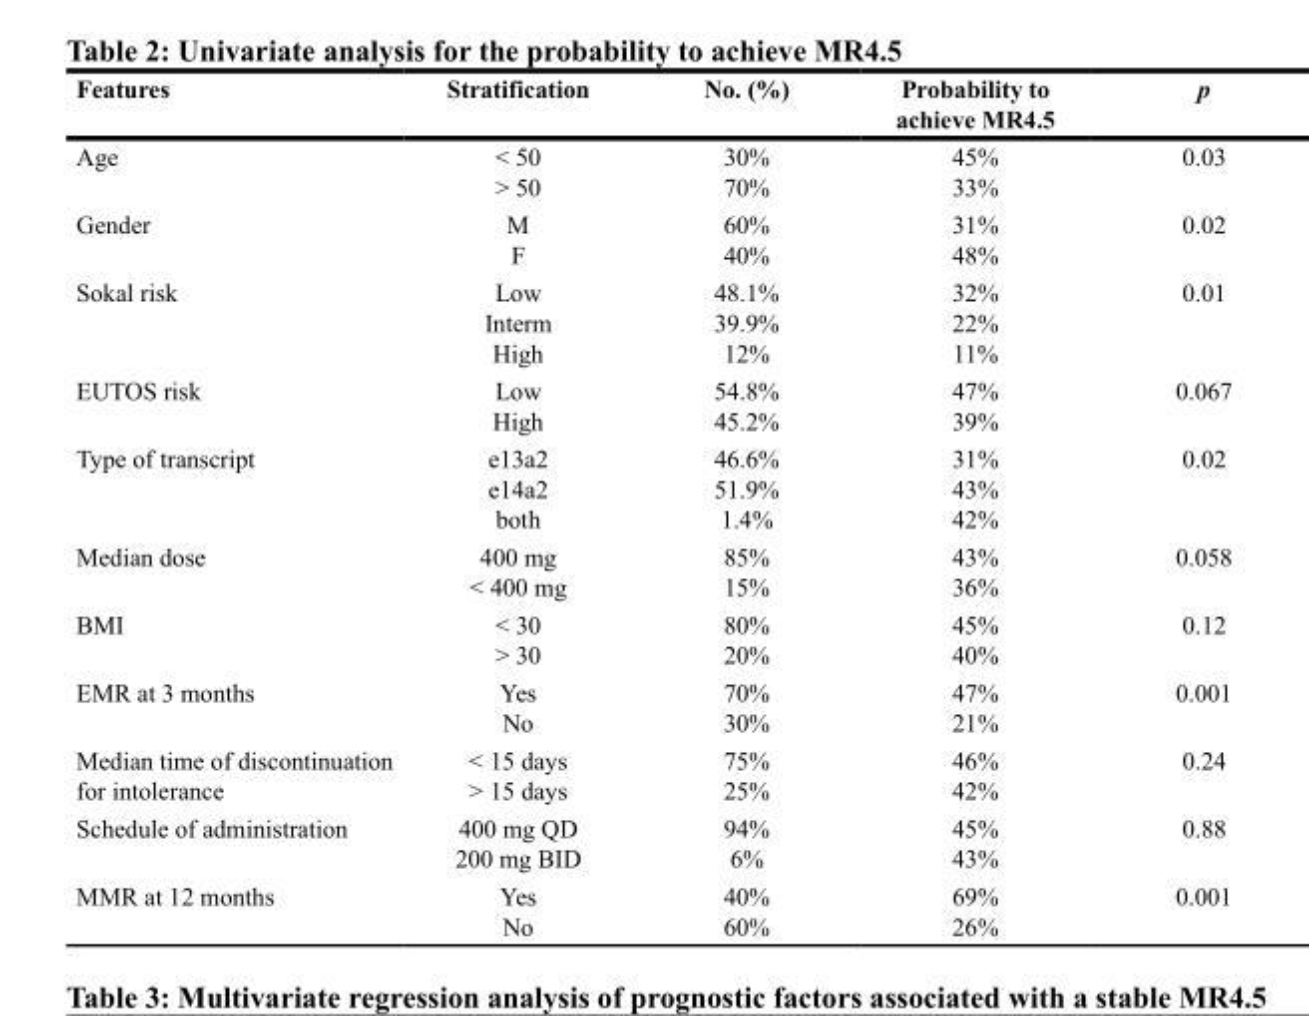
<table><thead><tr><td>Features</td><td>Stratification</td><td>No. (%)</td><td>Probability to achieve MR4.5</td><td>p</td></tr></thead><tbody><tr><td>Age</td><td>&lt; 50 &gt; 50</td><td>30% 70%</td><td>45% 33%</td><td>0.03</td></tr><tr><td>Gender</td><td>M F</td><td>60% 40%</td><td>31% 48%</td><td>0.02</td></tr><tr><td>Sokal risk</td><td>Low Interm High</td><td>48.1% 39.9% 12%</td><td>32% 22% 11%</td><td>0.01</td></tr><tr><td>EUTOS risk</td><td>Low High</td><td>54.8% 45.2%</td><td>47% 39%</td><td>0.067</td></tr><tr><td>Type of transcript</td><td>e13a2 e14a2 both</td><td>46.6% 51.9% 1.4%</td><td>31% 43% 42%</td><td>0.02</td></tr><tr><td>Median dose</td><td>400 mg &lt; 400 mg</td><td>85% 15%</td><td>43% 36%</td><td>0.058</td></tr><tr><td>BMI</td><td>&lt; 30 &gt; 30</td><td>80% 20%</td><td>45% 40%</td><td>0.12</td></tr><tr><td>EMR at 3 months</td><td>Yes No</td><td>70% 30%</td><td>47% 21%</td><td>0.001</td></tr><tr><td>Median time of discontinuation for intolerance</td><td>&lt; 15 days &gt; 15 days</td><td>75% 25%</td><td>46% 42%</td><td>0.24</td></tr><tr><td>Schedule of administration</td><td>400 mg QD 200 mg BID</td><td>94% 6%</td><td>45% 43%</td><td>0.88</td></tr><tr><td>MMR at 12 months</td><td>Yes No</td><td>40% 60%</td><td>69% 26%</td><td>0.001</td></tr></tbody></table>